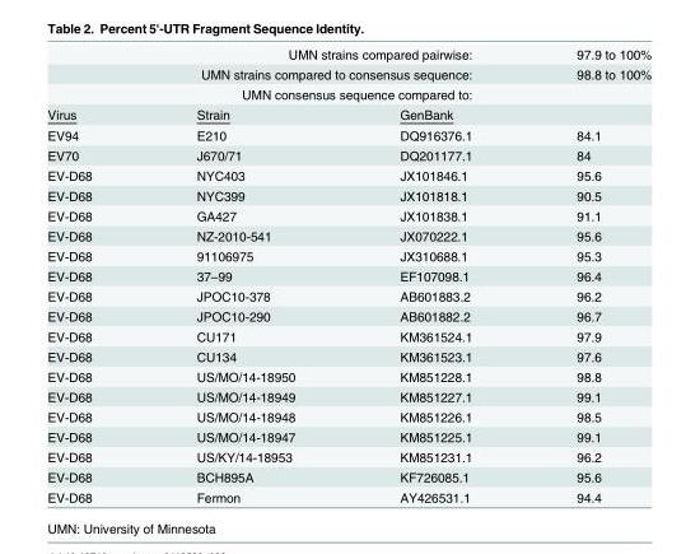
<table><tbody><tr><td colspan="3">UMN strains compared pairwise:</td><td>97.9 to 100%</td></tr><tr><td colspan="3">UMN strains compared to consensus sequence:</td><td>98.8 to 100%</td></tr><tr><td colspan="4">UMN consensus sequence compared to:</td></tr><tr><td>Virus</td><td>Strain</td><td>GenBank</td><td></td></tr><tr><td>EV94</td><td>E210</td><td>DQ916376.1</td><td>84.1</td></tr><tr><td>EV70</td><td>J670/71</td><td>DQ201177.1</td><td>84</td></tr><tr><td>EV-D68</td><td>NYC403</td><td>JX101846.1</td><td>95.6</td></tr><tr><td>EV-D68</td><td>NYC399</td><td>JX101818.1</td><td>90.5</td></tr><tr><td>EV-D68</td><td>GA427</td><td>JX101838.1</td><td>91.1</td></tr><tr><td>EV-D68</td><td>NZ-2010-541</td><td>JX070222.1</td><td>95.6</td></tr><tr><td>EV-D68</td><td>91106975</td><td>JX310688.1</td><td>95.3</td></tr><tr><td>EV-D68</td><td>37–99</td><td>EF107098.1</td><td>96.4</td></tr><tr><td>EV-D68</td><td>JPOC10-378</td><td>AB601883.2</td><td>96.2</td></tr><tr><td>EV-D68</td><td>JPOC10-290</td><td>AB601882.2</td><td>96.7</td></tr><tr><td>EV-D68</td><td>CU171</td><td>KM361524.1</td><td>97.9</td></tr><tr><td>EV-D68</td><td>CU134</td><td>KM361523.1</td><td>97.6</td></tr><tr><td>EV-D68</td><td>US/MO/14-18950</td><td>KM851228.1</td><td>98.8</td></tr><tr><td>EV-D68</td><td>US/MO/14-18949</td><td>KM851227.1</td><td>99.1</td></tr><tr><td>EV-D68</td><td>US/MO/14-18948</td><td>KM851226.1</td><td>98.5</td></tr><tr><td>EV-D68</td><td>US/MO/14-18947</td><td>KM851225.1</td><td>99.1</td></tr><tr><td>EV-D68</td><td>US/KY/14-18953</td><td>KM851231.1</td><td>96.2</td></tr><tr><td>EV-D68</td><td>BCH895A</td><td>KF726085.1</td><td>95.6</td></tr><tr><td>EV-D68</td><td>Fermon</td><td>AY426531.1</td><td>94.4</td></tr></tbody></table>